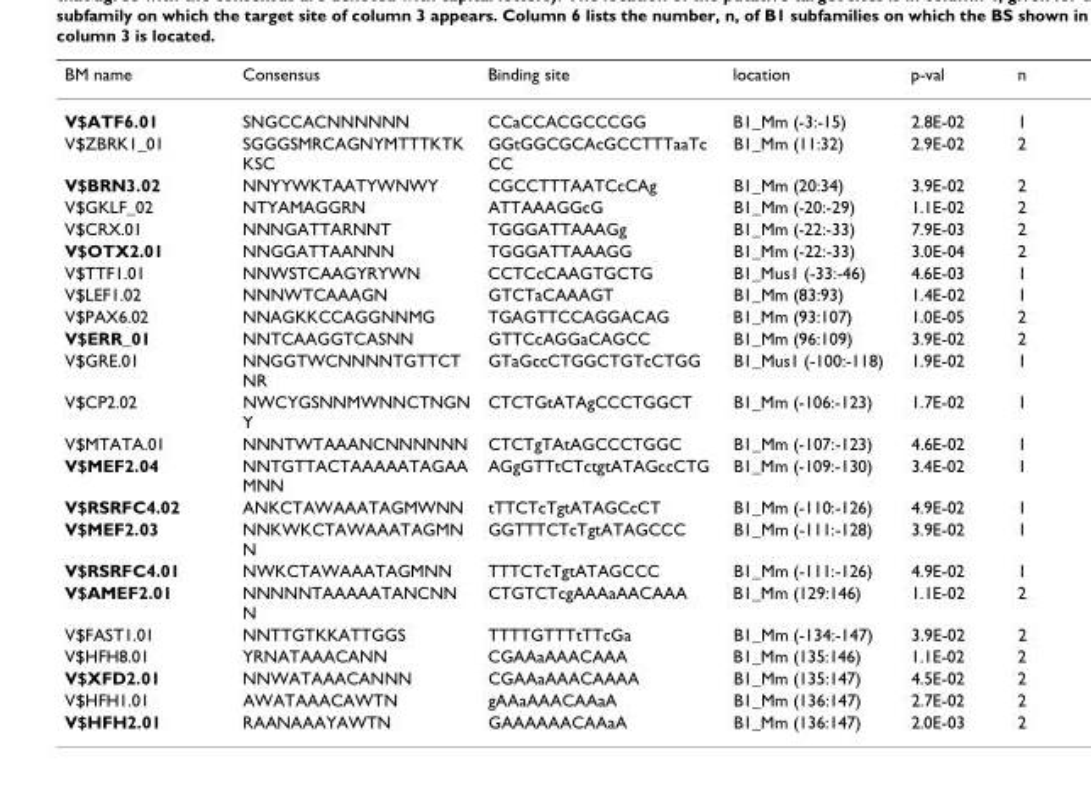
<table><thead><tr><td>BM name</td><td>Consensus</td><td>Binding site</td><td>location</td><td>p-val</td><td>n</td></tr></thead><tbody><tr><td>V$ATF6.01</td><td>SNGCCACNNNNNN</td><td>CCaCCACGCCCGG</td><td>B1_Mm (-3:-15)</td><td>2.8E-02</td><td>1</td></tr><tr><td>V$ZBRK1_01</td><td>SGGGSMRCAGNYMTTTKTK KSC</td><td>GGtGGCGCAcGCCTTTaaTc CC</td><td>B1_Mm (11:32)</td><td>2.9E-02</td><td>2</td></tr><tr><td>V$BRN3.02</td><td>NNYYWKTAATYWNWY</td><td>CGCCTTTAATCcCAg</td><td>B1_Mm (20:34)</td><td>3.9E-02</td><td>2</td></tr><tr><td>V$GKLF_02</td><td>NTYAMAGGRN</td><td>ATTAAAGGcG</td><td>B1_Mm (-20:-29)</td><td>1.1E-02</td><td>2</td></tr><tr><td>V$CRX.01</td><td>NNNGATTARNNT</td><td>TGGGATTAAAGg</td><td>B1_Mm (-22:-33)</td><td>7.9E-03</td><td>2</td></tr><tr><td>V$OTX2.01</td><td>NNGGATTAANNN</td><td>TGGGATTAAAGG</td><td>B1_Mm (-22:-33)</td><td>3.0E-04</td><td>2</td></tr><tr><td>V$TTF1.01</td><td>NNWSTCAAGYRYWN</td><td>CCTCcCAAGTGCTG</td><td>B1_Mus1 (-33:-46)</td><td>4.6E-03</td><td>1</td></tr><tr><td>V$LEF1.02</td><td>NNNWTCAAAGN</td><td>GTCTaCAAAGT</td><td>B1_Mm (83:93)</td><td>1.4E-02</td><td>1</td></tr><tr><td>V$PAX6.02</td><td>NNAGKKCCAGGNNMG</td><td>TGAGTTCCAGGACAG</td><td>B1_Mm (93:107)</td><td>1.0E-05</td><td>2</td></tr><tr><td>V$ERR_01</td><td>NNTCAAGGTCASNN</td><td>GTTCcAGGaCAGCC</td><td>B1_Mm (96:109)</td><td>3.9E-02</td><td>2</td></tr><tr><td>V$GRE.01</td><td>NNGGTWCNNNNTGTTCT NR</td><td>GTaGccCTGGCTGTcCTGG</td><td>B1_Mus1 (-100:-118)</td><td>1.9E-02</td><td>1</td></tr><tr><td>V$CP2.02</td><td>NWCYGSNNMWNNCTNGN Y</td><td>CTCTGtATAgCCCTGGCT</td><td>B1_Mm (-106:-123)</td><td>1.7E-02</td><td>1</td></tr><tr><td>V$MTATA.01</td><td>NNNTWTAAANCNNNNNN</td><td>CTCTgTAtAGCCCTGGC</td><td>B1_Mm (-107:-123)</td><td>4.6E-02</td><td>1</td></tr><tr><td>V$MEF2.04</td><td>NNTGTTACTAAAAATAGAA MNN</td><td>AGgGTTtCTctgtATAGccCTG</td><td>B1_Mm (-109:-130)</td><td>3.4E-02</td><td>1</td></tr><tr><td>V$RSRFC4.02</td><td>ANKCTAWAAATAGMWNN</td><td>tTTCTcTgtATAGCcCT</td><td>B1_Mm (-110:-126)</td><td>4.9E-02</td><td>1</td></tr><tr><td>V$MEF2.03</td><td>NNKWKCTAWAAATAGMN N</td><td>GGTTTCTcTgtATAGCCC</td><td>B1_Mm (-111:-128)</td><td>3.9E-02</td><td>1</td></tr><tr><td>V$RSRFC4.01</td><td>NWKCTAWAAATAGMNN</td><td>TTTCTcTgtATAGCCC</td><td>B1_Mm (-111:-126)</td><td>4.9E-02</td><td>1</td></tr><tr><td>V$AMEF2.01</td><td>NNNNNTAAAAATANCNN N</td><td>CTGTCTcgAAAaAACAAA</td><td>B1_Mm (129:146)</td><td>1.1E-02</td><td>2</td></tr><tr><td>V$FAST1.01</td><td>NNTTGTKKATTGGS</td><td>TTTTGTTTtTTcGa</td><td>B1_Mm (-134:-147)</td><td>3.9E-02</td><td>2</td></tr><tr><td>V$HFH8.01</td><td>YRNATAAACANN</td><td>CGAAaAAACAAA</td><td>B1_Mm (135:146)</td><td>1.1E-02</td><td>2</td></tr><tr><td>V$XFD2.01</td><td>NNWATAAACANNN</td><td>CGAAaAAACAAAA</td><td>B1_Mm (135:147)</td><td>4.5E-02</td><td>2</td></tr><tr><td>V$HFH1.01</td><td>AWATAAACAWTN</td><td>gAAaAAACAAaA</td><td>B1_Mm (136:147)</td><td>2.7E-02</td><td>2</td></tr><tr><td>V$HFH2.01</td><td>RAANAAAYAWTN</td><td>GAAAAAACAAaA</td><td>B1_Mm (136:147)</td><td>2.0E-03</td><td>2</td></tr></tbody></table>